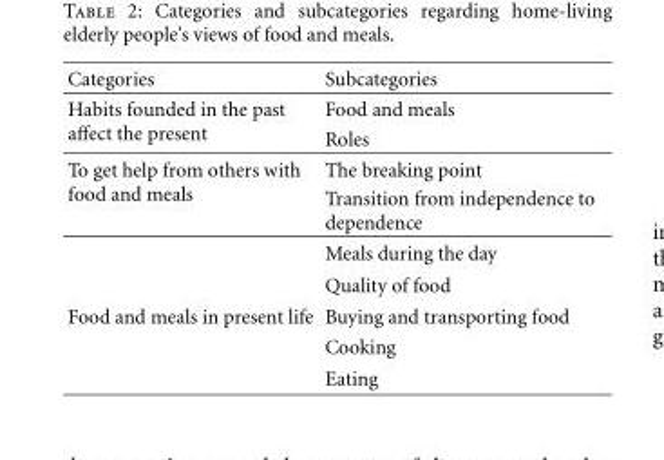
<table><thead><tr><td>Categories</td><td>Subcategories</td></tr></thead><tbody><tr><td rowspan="2">Habits founded in the past affect the present</td><td>Food and meals</td></tr><tr><td>Roles</td></tr><tr><td rowspan="4">To get help from others with food and meals</td><td>The breaking point</td></tr><tr><td>Transition from independence to dependence</td></tr><tr><td>Meals during the day</td></tr><tr><td>Quality of food</td></tr><tr><td rowspan="3">Food and meals in present life</td><td>Buying and transporting food</td></tr><tr><td>Cooking</td></tr><tr><td>Eating</td></tr></tbody></table>